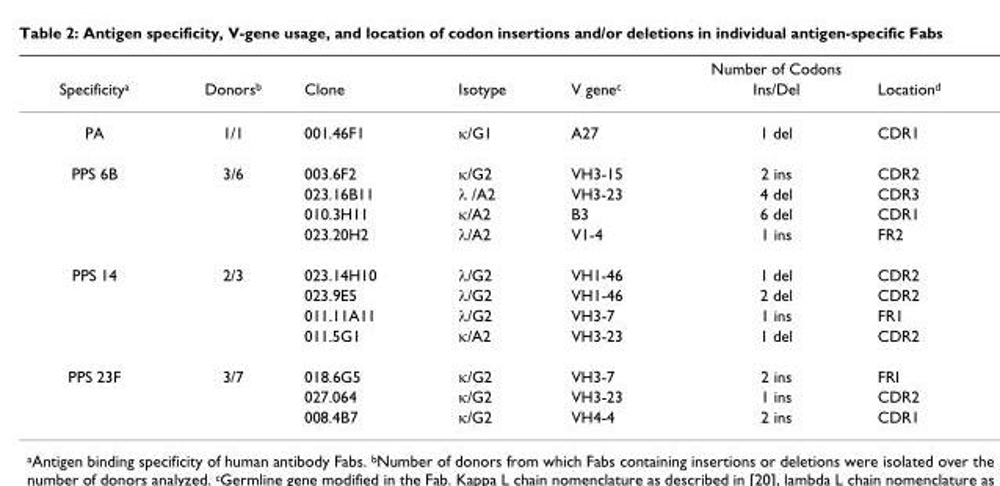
<table><thead><tr><td rowspan="2">Specificity<sup>a</sup></td><td rowspan="2">Donors<sup>b</sup></td><td rowspan="2">Clone</td><td rowspan="2">Isotype</td><td rowspan="2">V gene<sup>c</sup></td><td rowspan="2">Number of Codons Ins/Del</td><td rowspan="2">Location<sup>d</sup></td></tr><tr></tr></thead><tbody><tr><td>PA</td><td>1/1</td><td>001.46F1</td><td>κ/G1</td><td>A27</td><td>1 del</td><td>CDR1</td></tr><tr><td rowspan="4">PPS 6B</td><td>3/6</td><td>003.6F2</td><td>κ/G2</td><td>VH3-15</td><td>2 ins</td><td>CDR2</td></tr><tr><td></td><td>023.16B11</td><td>λ /A2</td><td>VH3-23</td><td>4 del</td><td>CDR3</td></tr><tr><td></td><td>010.3H11</td><td>κ/A2</td><td>B3</td><td>6 del</td><td>CDR1</td></tr><tr><td></td><td>023.20H2</td><td>λ/A2</td><td>V1-4</td><td>1 ins</td><td>FR2</td></tr><tr><td rowspan="4">PPS 14</td><td>2/3</td><td>023.14H10</td><td>λ/G2</td><td>VH1-46</td><td>1 del</td><td>CDR2</td></tr><tr><td></td><td>023.9E5</td><td>λ/G2</td><td>VH1-46</td><td>2 del</td><td>CDR2</td></tr><tr><td></td><td>011.11A11</td><td>λ/G2</td><td>VH3-7</td><td>1 ins</td><td>FR1</td></tr><tr><td></td><td>011.5G1</td><td>κ/A2</td><td>VH3-23</td><td>1 del</td><td>CDR2</td></tr><tr><td rowspan="3">PPS 23F</td><td>3/7</td><td>018.6G5</td><td>κ/G2</td><td>VH3-7</td><td>2 ins</td><td>FRI</td></tr><tr><td></td><td>027.064</td><td>κ/G2</td><td>VH3-23</td><td>1 ins</td><td>CDR2</td></tr><tr><td></td><td>008.4B7</td><td>κ/G2</td><td>VH4-4</td><td>2 ins</td><td>CDR1</td></tr></tbody></table>